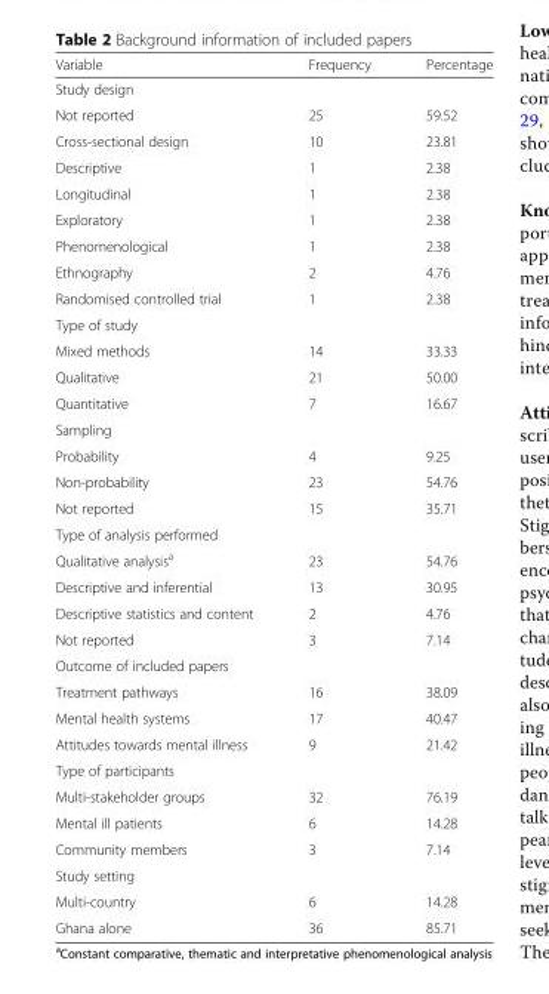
<table><thead><tr><td>Variable</td><td>Frequency</td><td>Percentage</td></tr></thead><tbody><tr><td colspan="3">Study design</td></tr><tr><td>Not reported</td><td>25</td><td>59.52</td></tr><tr><td>Cross-sectional design</td><td>10</td><td>23.81</td></tr><tr><td>Descriptive</td><td>1</td><td>2.38</td></tr><tr><td>Longitudinal</td><td>1</td><td>2.38</td></tr><tr><td>Exploratory</td><td>1</td><td>2.38</td></tr><tr><td>Phenomenological</td><td>1</td><td>2.38</td></tr><tr><td>Ethnography</td><td>2</td><td>4.76</td></tr><tr><td>Randomised controlled trial</td><td>1</td><td>2.38</td></tr><tr><td colspan="3">Type of study</td></tr><tr><td>Mixed methods</td><td>14</td><td>33.33</td></tr><tr><td>Qualitative</td><td>21</td><td>50.00</td></tr><tr><td>Quantitative</td><td>7</td><td>16.67</td></tr><tr><td colspan="3">Sampling</td></tr><tr><td>Probability</td><td>4</td><td>9.25</td></tr><tr><td>Non-probability</td><td>23</td><td>54.76</td></tr><tr><td>Not reported</td><td>15</td><td>35.71</td></tr><tr><td colspan="3">Type of analysis performed</td></tr><tr><td>Qualitative analysis<sup>a</sup></td><td>23</td><td>54.76</td></tr><tr><td>Descriptive and inferential</td><td>13</td><td>30.95</td></tr><tr><td>Descriptive statistics and content</td><td>2</td><td>4.76</td></tr><tr><td>Not reported</td><td>3</td><td>7.14</td></tr><tr><td colspan="3">Outcome of included papers</td></tr><tr><td>Treatment pathways</td><td>16</td><td>38.09</td></tr><tr><td>Mental health systems</td><td>17</td><td>40.47</td></tr><tr><td>Attitudes towards mental illness</td><td>9</td><td>21.42</td></tr><tr><td colspan="3">Type of participants</td></tr><tr><td>Multi-stakeholder groups</td><td>32</td><td>76.19</td></tr><tr><td>Mental ill patients</td><td>6</td><td>14.28</td></tr><tr><td>Community members</td><td>3</td><td>7.14</td></tr><tr><td colspan="3">Study setting</td></tr><tr><td>Multi-country</td><td>6</td><td>14.28</td></tr><tr><td>Ghana alone</td><td>36</td><td>85.71</td></tr></tbody></table>